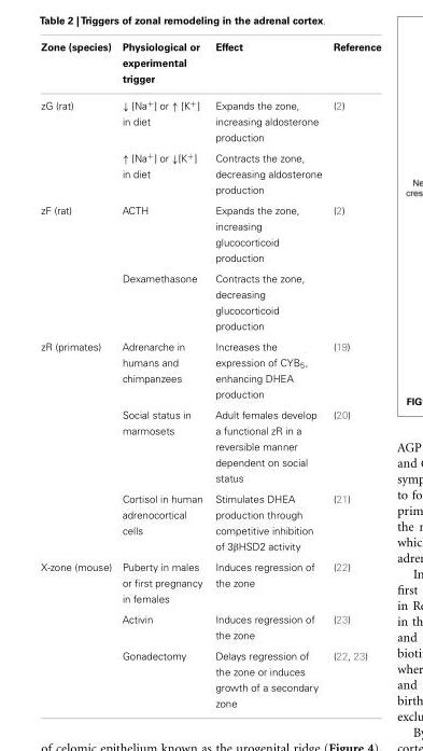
<table><thead><tr><td>Zone (species)</td><td>Physiological or experimental trigger</td><td>Effect</td><td>Reference</td></tr></thead><tbody><tr><td rowspan="2">zG (rat)</td><td>↓ [Na<sup>+</sup>] or ↑ [K<sup>+</sup>] in diet</td><td>Expands the zone, increasing aldosterone production</td><td>(2)</td></tr><tr><td>↑ [Na<sup>+</sup>] or ↓[K<sup>+</sup>] in diet</td><td>Contracts the zone, decreasing aldosterone production</td><td></td></tr><tr><td rowspan="2">zF (rat)</td><td>ACTH</td><td>Expands the zone, increasing glucocorticoid production</td><td>(2)</td></tr><tr><td>Dexamethasone</td><td>Contracts the zone, decreasing glucocorticoid production</td><td></td></tr><tr><td rowspan="3">zR (primates)</td><td>Adrenarche in humans and chimpanzees</td><td>Increases the expression of CYB<sub>5</sub>, enhancing DHEA production</td><td>(19)</td></tr><tr><td>Social status in marmosets</td><td>Adult females develop a functional zR in a reversible manner dependent on social status</td><td>(20)</td></tr><tr><td>Cortisol in human adrenocortical cells</td><td>Stimulates DHEA production through competitive inhibition of 3βHSD2 activity</td><td>(21)</td></tr><tr><td rowspan="3">X-zone (mouse)</td><td>Puberty in males or first pregnancy in females</td><td>Induces regression of the zone</td><td>(22)</td></tr><tr><td>Activin</td><td>Induces regression of the zone</td><td>(23)</td></tr><tr><td>Gonadectomy</td><td>Delays regression of the zone or induces growth of a secondary zone</td><td>(22, 23)</td></tr></tbody></table>